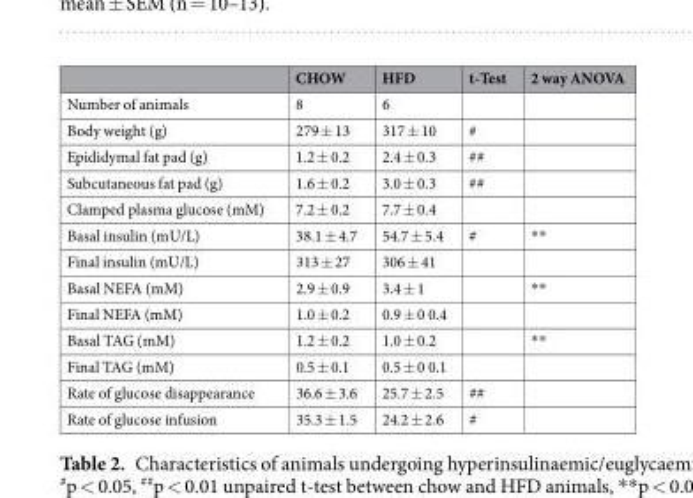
<table><thead><tr><td></td><td>CHOW</td><td>HFD</td><td>t-Test</td><td>2 way ANOVA</td></tr></thead><tbody><tr><td>Number of animals</td><td>8</td><td>6</td><td></td><td></td></tr><tr><td>Body weight (g)</td><td>279 ± 13</td><td>317 ± 10</td><td>#</td><td></td></tr><tr><td>Epididymal fat pad (g)</td><td>1.2 ± 0.2</td><td>2.4 ± 0.3</td><td>##</td><td></td></tr><tr><td>Subcutaneous fat pad (g)</td><td>1.6 ± 0.2</td><td>3.0 ± 0.3</td><td>##</td><td></td></tr><tr><td>Clamped plasma glucose (mM)</td><td>7.2 ± 0.2</td><td>7.7 ± 0.4</td><td></td><td></td></tr><tr><td>Basal insulin (mU/L)</td><td>38.1 ± 4.7</td><td>54.7 ± 5.4</td><td>#</td><td>**</td></tr><tr><td>Final insulin (mU/L)</td><td>313 ± 27</td><td>306 ± 41</td><td></td><td></td></tr><tr><td>Basal NEFA (mM)</td><td>2.9 ± 0.9</td><td>3.4 ± 1</td><td></td><td>**</td></tr><tr><td>Final NEFA (mM)</td><td>1.0 ± 0.2</td><td>0.9 ± 0 0.4</td><td></td><td></td></tr><tr><td>Basal TAG (mM)</td><td>1.2 ± 0.2</td><td>1.0 ± 0.2</td><td></td><td>**</td></tr><tr><td>Final TAG (mM)</td><td>0.5 ± 0.1</td><td>0.5 ± 0 0.1</td><td></td><td></td></tr><tr><td>Rate of glucose disappearance</td><td>36.6 ± 3.6</td><td>25.7 ± 2.5</td><td>##</td><td></td></tr><tr><td>Rate of glucose infusion</td><td>35.3 ± 1.5</td><td>24.2 ± 2.6</td><td>#</td><td></td></tr></tbody></table>